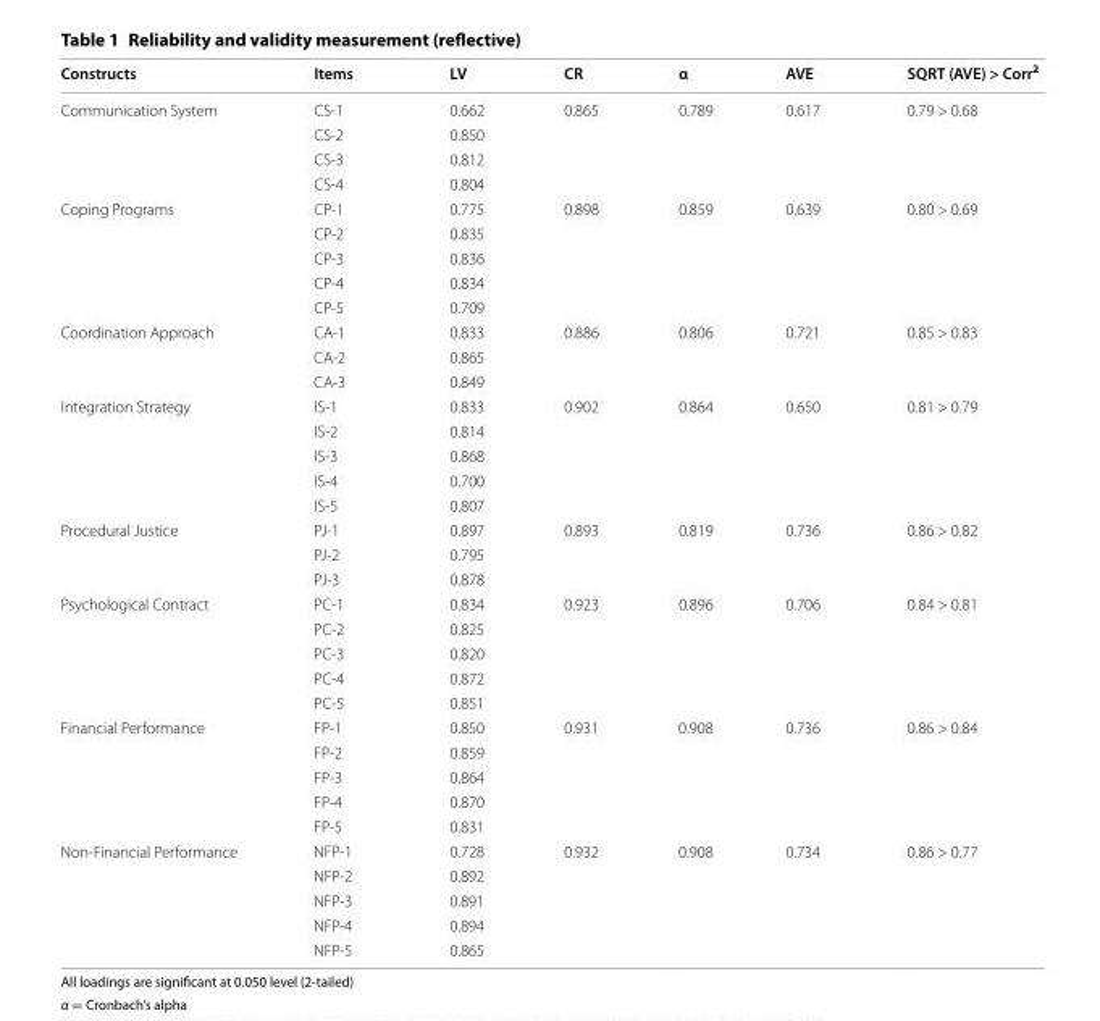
<table><thead><tr><td>Constructs</td><td>Items</td><td>LV</td><td>CR</td><td>α</td><td>AVE</td><td>SQRT (AVE) &gt; Corr<sup>2</sup></td></tr></thead><tbody><tr><td rowspan="4">Communication System</td><td>CS-1</td><td>0.662</td><td rowspan="4">0.865</td><td rowspan="4">0.789</td><td rowspan="4">0.617</td><td rowspan="4">0.79 &gt; 0.68</td></tr><tr><td>CS-2</td><td>0.850</td></tr><tr><td>CS-3</td><td>0.812</td></tr><tr><td>CS-4</td><td>0.804</td></tr><tr><td rowspan="5">Coping Programs</td><td>CP-1</td><td>0.775</td><td rowspan="5">0.898</td><td rowspan="5">0.859</td><td rowspan="5">0.639</td><td rowspan="5">0.80 &gt; 0.69</td></tr><tr><td>CP-2</td><td>0.835</td></tr><tr><td>CP-3</td><td>0.836</td></tr><tr><td>CP-4</td><td>0.834</td></tr><tr><td>CP-5</td><td>0.709</td></tr><tr><td rowspan="3">Coordination Approach</td><td>CA-1</td><td>0.833</td><td rowspan="3">0.886</td><td rowspan="3">0.806</td><td rowspan="3">0.721</td><td rowspan="3">0.85 &gt; 0.83</td></tr><tr><td>CA-2</td><td>0.865</td></tr><tr><td>CA-3</td><td>0.849</td></tr><tr><td rowspan="5">Integration Strategy</td><td>IS-1</td><td>0.833</td><td rowspan="5">0.902</td><td rowspan="5">0.864</td><td rowspan="5">0.650</td><td rowspan="5">0.81 &gt; 0.79</td></tr><tr><td>IS-2</td><td>0.814</td></tr><tr><td>IS-3</td><td>0.868</td></tr><tr><td>IS-4</td><td>0.700</td></tr><tr><td>IS-5</td><td>0.807</td></tr><tr><td rowspan="3">Procedural Justice</td><td>PJ-1</td><td>0.897</td><td rowspan="3">0.893</td><td rowspan="3">0.819</td><td rowspan="3">0.736</td><td rowspan="3">0.86 &gt; 0.82</td></tr><tr><td>PJ-2</td><td>0.795</td></tr><tr><td>PJ-3</td><td>0.878</td></tr><tr><td rowspan="5">Psychological Contract</td><td>PC-1</td><td>0.834</td><td rowspan="5">0.923</td><td rowspan="5">0.896</td><td rowspan="5">0.706</td><td rowspan="5">0.84 &gt; 0.81</td></tr><tr><td>PC-2</td><td>0.825</td></tr><tr><td>PC-3</td><td>0.820</td></tr><tr><td>PC-4</td><td>0.872</td></tr><tr><td>PC-5</td><td>0.851</td></tr><tr><td rowspan="5">Financial Performance</td><td>FP-1</td><td>0.850</td><td rowspan="5">0.931</td><td rowspan="5">0.908</td><td rowspan="5">0.736</td><td rowspan="5">0.86 &gt; 0.84</td></tr><tr><td>FP-2</td><td>0.859</td></tr><tr><td>FP-3</td><td>0.864</td></tr><tr><td>FP-4</td><td>0.870</td></tr><tr><td>FP-5</td><td>0.831</td></tr><tr><td rowspan="5">Non-Financial Performance</td><td>NFP-1</td><td>0.728</td><td rowspan="5">0.932</td><td rowspan="5">0.908</td><td rowspan="5">0.734</td><td rowspan="5">0.86 &gt; 0.77</td></tr><tr><td>NFP-2</td><td>0.892</td></tr><tr><td>NFP-3</td><td>0.891</td></tr><tr><td>NFP-4</td><td>0.894</td></tr><tr><td>NFP-5</td><td>0.865</td></tr></tbody></table>